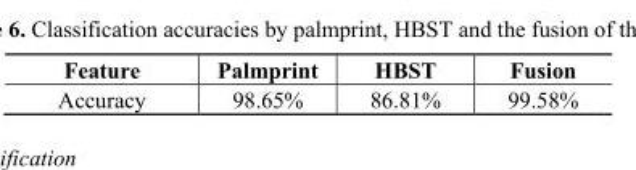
<table><thead><tr><td>Feature</td><td>Palmprint</td><td>HBST</td><td>Fusion</td></tr></thead><tbody><tr><td>Accuracy</td><td>98.65%</td><td>86.81%</td><td>99.58%</td></tr></tbody></table>